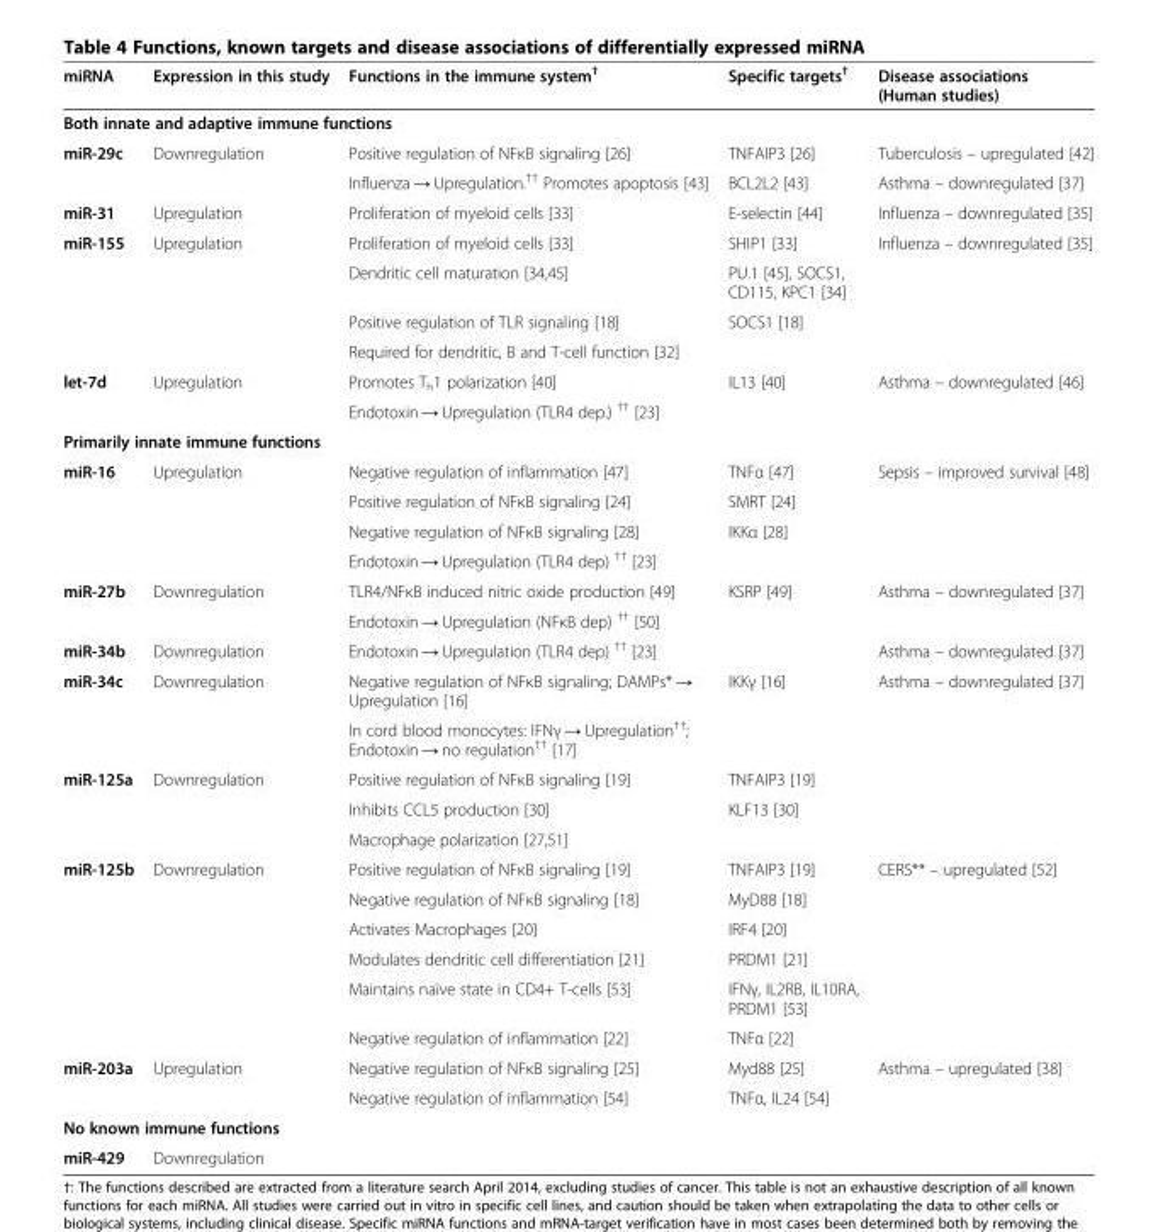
<table><thead><tr><td>miRNA</td><td>Expression in this study</td><td>Functions in the immune system<sup>†</sup></td><td>Specific targets<sup>†</sup></td><td>Disease associations (Human studies)</td></tr></thead><tbody><tr><td colspan="5">Both innate and adaptive immune functions</td></tr><tr><td rowspan="2">miR-29c</td><td>Downregulation</td><td>Positive regulation of NFκB signaling [26]</td><td>TNFAIP3 [26]</td><td>Tuberculosis – upregulated [42]</td></tr><tr><td></td><td>Influenza → Upregulation.<sup>††</sup> Promotes apoptosis [43]</td><td>BCL2L2 [43]</td><td>Asthma – downregulated [37]</td></tr><tr><td>miR-31</td><td>Upregulation</td><td>Proliferation of myeloid cells [33]</td><td>E-selectin [44]</td><td>Influenza – downregulated [35]</td></tr><tr><td rowspan="4">miR-155</td><td>Upregulation</td><td>Proliferation of myeloid cells [33]</td><td>SHIP1 [33]</td><td>Influenza – downregulated [35]</td></tr><tr><td></td><td>Dendritic cell maturation [34,45]</td><td>PU.1 [45], SOCS1, CD115, KPC1 [34]</td><td></td></tr><tr><td></td><td>Positive regulation of TLR signaling [18]</td><td>SOCS1 [18]</td><td></td></tr><tr><td></td><td>Required for dendritic, B and T-cell function [32]</td><td></td><td></td></tr><tr><td rowspan="2">let-7d</td><td>Upregulation</td><td>Promotes T<sub>h</sub>1 polarization [40]</td><td>IL13 [40]</td><td>Asthma – downregulated [46]</td></tr><tr><td></td><td>Endotoxin → Upregulation (TLR4 dep.) <sup>††</sup> [23]</td><td></td><td></td></tr><tr><td colspan="5">Primarily innate immune functions</td></tr><tr><td rowspan="4">miR-16</td><td>Upregulation</td><td>Negative regulation of inflammation [47]</td><td>TNFα [47]</td><td>Sepsis – improved survival [48]</td></tr><tr><td></td><td>Positive regulation of NFκB signaling [24]</td><td>SMRT [24]</td><td></td></tr><tr><td></td><td>Negative regulation of NFκB signaling [28]</td><td>IKKα [28]</td><td></td></tr><tr><td></td><td>Endotoxin → Upregulation (TLR4 dep) <sup>††</sup> [23]</td><td></td><td></td></tr><tr><td rowspan="2">miR-27b</td><td>Downregulation</td><td>TLR4/NFκB induced nitric oxide production [49]</td><td>KSRP [49]</td><td>Asthma – downregulated [37]</td></tr><tr><td></td><td>Endotoxin → Upregulation (NFκB dep) <sup>††</sup> [50]</td><td></td><td></td></tr><tr><td>miR-34b</td><td>Downregulation</td><td>Endotoxin → Upregulation (TLR4 dep) <sup>††</sup> [23]</td><td></td><td>Asthma – downregulated [37]</td></tr><tr><td rowspan="2">miR-34c</td><td>Downregulation</td><td>Negative regulation of NFκB signaling; DAMPs* → Upregulation [16]</td><td>IKKγ [16]</td><td>Asthma – downregulated [37]</td></tr><tr><td></td><td>In cord blood monocytes: IFNγ → Upregulation<sup>††</sup>; Endotoxin → no regulation<sup>††</sup> [17]</td><td></td><td></td></tr><tr><td rowspan="3">miR-125a</td><td>Downregulation</td><td>Positive regulation of NFκB signaling [19]</td><td>TNFAIP3 [19]</td><td></td></tr><tr><td></td><td>Inhibits CCL5 production [30]</td><td>KLF13 [30]</td><td></td></tr><tr><td></td><td>Macrophage polarization [27,51]</td><td></td><td></td></tr><tr><td rowspan="6">miR-125b</td><td>Downregulation</td><td>Positive regulation of NFκB signaling [19]</td><td>TNFAIP3 [19]</td><td>CERS** – upregulated [52]</td></tr><tr><td></td><td>Negative regulation of NFκB signaling [18]</td><td>MyD88 [18]</td><td></td></tr><tr><td></td><td>Activates Macrophages [20]</td><td>IRF4 [20]</td><td></td></tr><tr><td></td><td>Modulates dendritic cell differentiation [21]</td><td>PRDM1 [21]</td><td></td></tr><tr><td></td><td>Maintains naïve state in CD4+ T-cells [53]</td><td>IFNγ, IL2RB, IL10RA, PRDM1 [53]</td><td></td></tr><tr><td></td><td>Negative regulation of inflammation [22]</td><td>TNFα [22]</td><td></td></tr><tr><td rowspan="2">miR-203a</td><td>Upregulation</td><td>Negative regulation of NFκB signaling [25]</td><td>Myd88 [25]</td><td>Asthma – upregulated [38]</td></tr><tr><td></td><td>Negative regulation of inflammation [54]</td><td>TNFα, IL24 [54]</td><td></td></tr><tr><td colspan="5">No known immune functions</td></tr><tr><td>miR-429</td><td>Downregulation</td><td></td><td></td><td></td></tr></tbody></table>